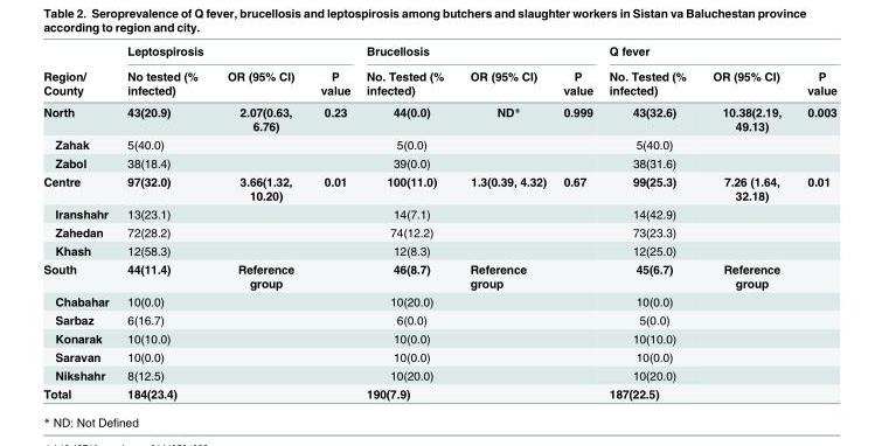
<table><thead><tr><td rowspan="2">Region/ County</td><td colspan="3">Leptospirosis</td><td colspan="3">Brucellosis</td><td colspan="3">Q fever</td></tr><tr><td>No tested (% infected)</td><td>OR (95% CI)</td><td>P value</td><td>No. Tested (% infected)</td><td>OR (95% CI)</td><td>P value</td><td>No. Tested (% infected)</td><td>OR (95% CI)</td><td>P value</td></tr></thead><tbody><tr><td>North</td><td>43(20.9)</td><td>2.07(0.63, 6.76)</td><td>0.23</td><td>44(0.0)</td><td>ND*</td><td>0.999</td><td>43(32.6)</td><td>10.38(2.19, 49.13)</td><td>0.003</td></tr><tr><td>Zahak</td><td>5(40.0)</td><td></td><td></td><td>5(0.0)</td><td></td><td></td><td>5(40.0)</td><td></td><td></td></tr><tr><td>Zabol</td><td>38(18.4)</td><td></td><td></td><td>39(0.0)</td><td></td><td></td><td>38(31.6)</td><td></td><td></td></tr><tr><td>Centre</td><td>97(32.0)</td><td>3.66(1.32, 10.20)</td><td>0.01</td><td>100(11.0)</td><td>1.3(0.39, 4.32)</td><td>0.67</td><td>99(25.3)</td><td>7.26 (1.64, 32.18)</td><td>0.01</td></tr><tr><td>Iranshahr</td><td>13(23.1)</td><td></td><td></td><td>14(7.1)</td><td></td><td></td><td>14(42.9)</td><td></td><td></td></tr><tr><td>Zahedan</td><td>72(28.2)</td><td></td><td></td><td>74(12.2)</td><td></td><td></td><td>73(23.3)</td><td></td><td></td></tr><tr><td>Khash</td><td>12(58.3)</td><td></td><td></td><td>12(8.3)</td><td></td><td></td><td>12(25.0)</td><td></td><td></td></tr><tr><td>South</td><td>44(11.4)</td><td>Reference group</td><td></td><td>46(8.7)</td><td>Reference group</td><td></td><td>45(6.7)</td><td>Reference group</td><td></td></tr><tr><td>Chabahar</td><td>10(0.0)</td><td></td><td></td><td>10(20.0)</td><td></td><td></td><td>10(0.0)</td><td></td><td></td></tr><tr><td>Sarbaz</td><td>6(16.7)</td><td></td><td></td><td>6(0.0)</td><td></td><td></td><td>5(0.0)</td><td></td><td></td></tr><tr><td>Konarak</td><td>10(10.0)</td><td></td><td></td><td>10(0.0)</td><td></td><td></td><td>10(10.0)</td><td></td><td></td></tr><tr><td>Saravan</td><td>10(0.0)</td><td></td><td></td><td>10(0.0)</td><td></td><td></td><td>10(0.0)</td><td></td><td></td></tr><tr><td>Nikshahr</td><td>8(12.5)</td><td></td><td></td><td>10(20.0)</td><td></td><td></td><td>10(20.0)</td><td></td><td></td></tr><tr><td>Total</td><td colspan="3">184(23.4)</td><td colspan="3">190(7.9)</td><td colspan="3">187(22.5)</td></tr></tbody></table>